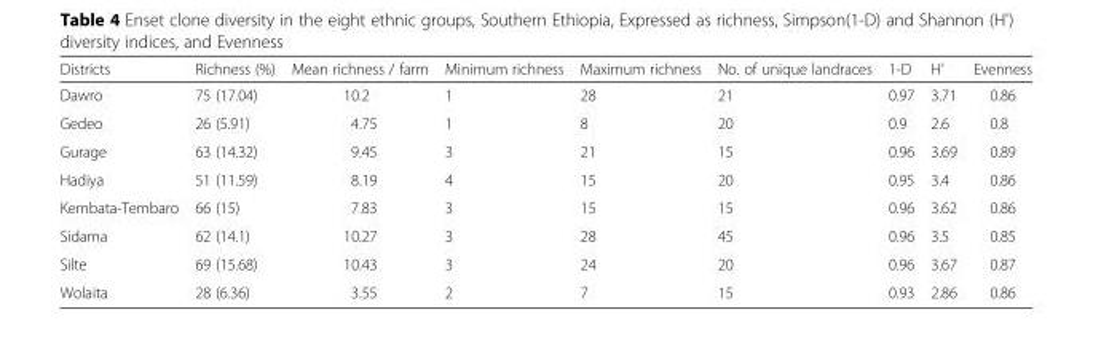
<table><thead><tr><td>Districts</td><td>Richness (%)</td><td>Mean richness / farm</td><td>Minimum richness</td><td>Maximum richness</td><td>No. of unique landraces</td><td>1-D</td><td>H&#x27;</td><td>Evenness</td></tr></thead><tbody><tr><td>Dawro</td><td>75 (17.04)</td><td>10.2</td><td>1</td><td>28</td><td>21</td><td>0.97</td><td>3.71</td><td>0.86</td></tr><tr><td>Gedeo</td><td>26 (5.91)</td><td>4.75</td><td>1</td><td>8</td><td>20</td><td>0.9</td><td>2.6</td><td>0.8</td></tr><tr><td>Gurage</td><td>63 (14.32)</td><td>9.45</td><td>3</td><td>21</td><td>15</td><td>0.96</td><td>3.69</td><td>0.89</td></tr><tr><td>Hadiya</td><td>51 (11.59)</td><td>8.19</td><td>4</td><td>15</td><td>20</td><td>0.95</td><td>3.4</td><td>0.86</td></tr><tr><td>Kembata-Tembaro</td><td>66 (15)</td><td>7.83</td><td>3</td><td>15</td><td>15</td><td>0.96</td><td>3.62</td><td>0.86</td></tr><tr><td>Sidama</td><td>62 (14.1)</td><td>10.27</td><td>3</td><td>28</td><td>45</td><td>0.96</td><td>3.5</td><td>0.85</td></tr><tr><td>Silte</td><td>69 (15.68)</td><td>10.43</td><td>3</td><td>24</td><td>20</td><td>0.96</td><td>3.67</td><td>0.87</td></tr><tr><td>Wolaita</td><td>28 (6.36)</td><td>3.55</td><td>2</td><td>7</td><td>15</td><td>0.93</td><td>2.86</td><td>0.86</td></tr></tbody></table>